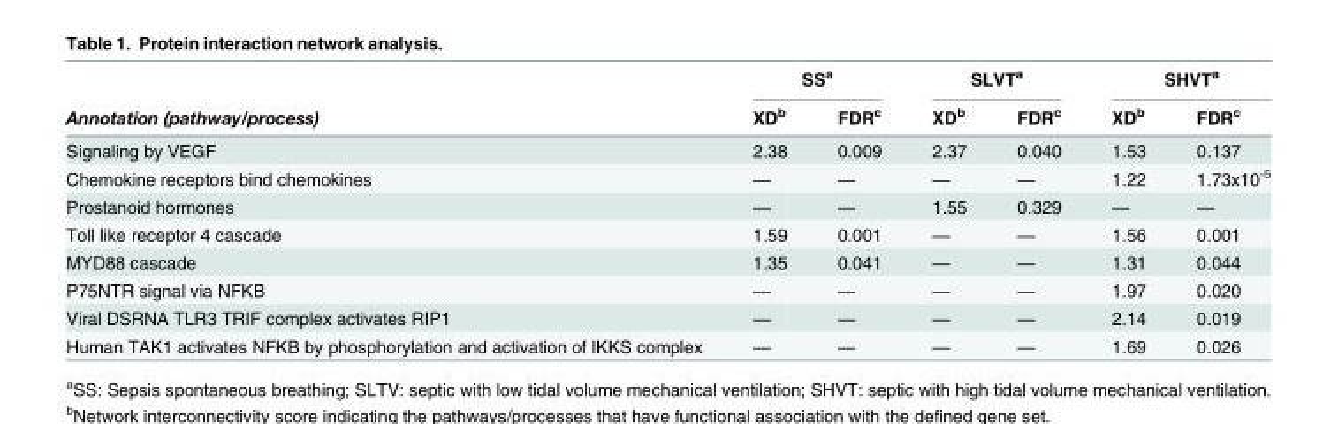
<table><thead><tr><td rowspan="2">Annotation (pathway/process)</td><td colspan="2">SS<sup>a</sup></td><td colspan="2">SLVT<sup>a</sup></td><td colspan="2">SHVT<sup>a</sup></td></tr><tr><td>XD<sup>b</sup></td><td>FDR<sup>c</sup></td><td>XD<sup>b</sup></td><td>FDR<sup>c</sup></td><td>XD<sup>b</sup></td><td>FDR<sup>c</sup></td></tr></thead><tbody><tr><td>Signaling by VEGF</td><td>2.38</td><td>0.009</td><td>2.37</td><td>0.040</td><td>1.53</td><td>0.137</td></tr><tr><td>Chemokine receptors bind chemokines</td><td>—</td><td>—</td><td>—</td><td>—</td><td>1.22</td><td>1.73x10<sup>-5</sup></td></tr><tr><td>Prostanoid hormones</td><td>—</td><td>—</td><td>1.55</td><td>0.329</td><td>—</td><td>—</td></tr><tr><td>Toll like receptor 4 cascade</td><td>1.59</td><td>0.001</td><td>—</td><td>—</td><td>1.56</td><td>0.001</td></tr><tr><td>MYD88 cascade</td><td>1.35</td><td>0.041</td><td>—</td><td>—</td><td>1.31</td><td>0.044</td></tr><tr><td>P75NTR signal via NFKB</td><td>—</td><td>—</td><td>—</td><td>—</td><td>1.97</td><td>0.020</td></tr><tr><td>Viral DSRNA TLR3 TRIF complex activates RIP1</td><td>—</td><td>—</td><td>—</td><td>—</td><td>2.14</td><td>0.019</td></tr><tr><td>Human TAK1 activates NFKB by phosphorylation and activation of IKKS complex</td><td>—</td><td>—</td><td>—</td><td>—</td><td>1.69</td><td>0.026</td></tr></tbody></table>